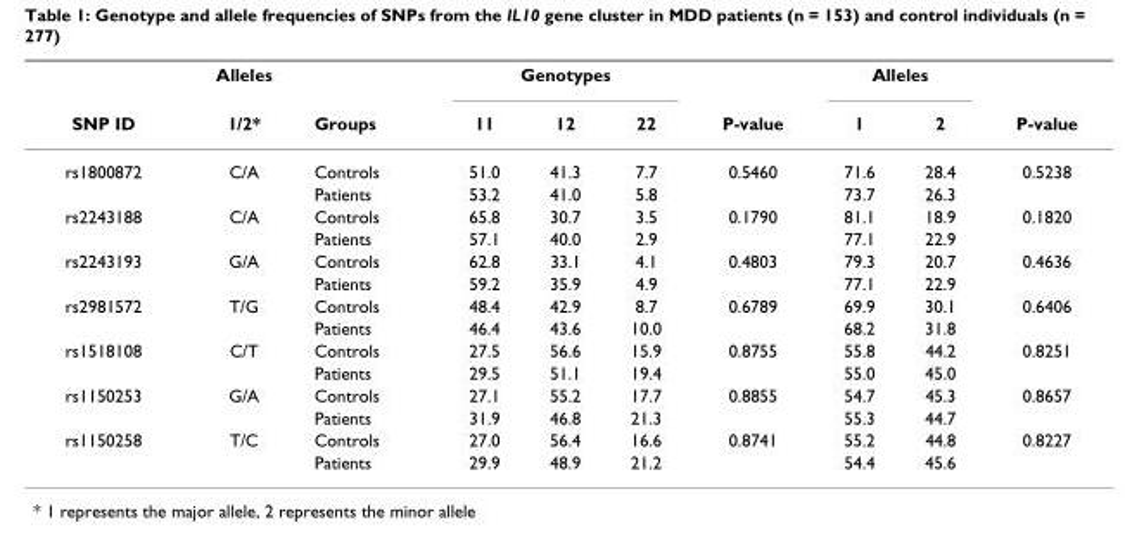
<table><thead><tr><td rowspan="2">SNP ID</td><td rowspan="2">Alleles 1/2*</td><td rowspan="2">Groups</td><td colspan="3">Genotypes</td><td rowspan="2">P-value</td><td colspan="2">Alleles</td><td rowspan="2">P-value</td></tr><tr><td>11</td><td>12</td><td>22</td><td>1</td><td>2</td></tr></thead><tbody><tr><td rowspan="2">rs1800872</td><td>C/A</td><td>Controls</td><td>51.0</td><td>41.3</td><td>7.7</td><td>0.5460</td><td>71.6</td><td>28.4</td><td>0.5238</td></tr><tr><td></td><td>Patients</td><td>53.2</td><td>41.0</td><td>5.8</td><td></td><td>73.7</td><td>26.3</td><td></td></tr><tr><td rowspan="2">rs2243188</td><td>C/A</td><td>Controls</td><td>65.8</td><td>30.7</td><td>3.5</td><td>0.1790</td><td>81.1</td><td>18.9</td><td>0.1820</td></tr><tr><td></td><td>Patients</td><td>57.1</td><td>40.0</td><td>2.9</td><td></td><td>77.1</td><td>22.9</td><td></td></tr><tr><td rowspan="2">rs2243193</td><td>G/A</td><td>Controls</td><td>62.8</td><td>33.1</td><td>4.1</td><td>0.4803</td><td>79.3</td><td>20.7</td><td>0.4636</td></tr><tr><td></td><td>Patients</td><td>59.2</td><td>35.9</td><td>4.9</td><td></td><td>77.1</td><td>22.9</td><td></td></tr><tr><td rowspan="2">rs2981572</td><td>T/G</td><td>Controls</td><td>48.4</td><td>42.9</td><td>8.7</td><td>0.6789</td><td>69.9</td><td>30.1</td><td>0.6406</td></tr><tr><td></td><td>Patients</td><td>46.4</td><td>43.6</td><td>10.0</td><td></td><td>68.2</td><td>31.8</td><td></td></tr><tr><td rowspan="2">rs1518108</td><td>C/T</td><td>Controls</td><td>27.5</td><td>56.6</td><td>15.9</td><td>0.8755</td><td>55.8</td><td>44.2</td><td>0.8251</td></tr><tr><td></td><td>Patients</td><td>29.5</td><td>51.1</td><td>19.4</td><td></td><td>55.0</td><td>45.0</td><td></td></tr><tr><td rowspan="2">rs1150253</td><td>G/A</td><td>Controls</td><td>27.1</td><td>55.2</td><td>17.7</td><td>0.8855</td><td>54.7</td><td>45.3</td><td>0.8657</td></tr><tr><td></td><td>Patients</td><td>31.9</td><td>46.8</td><td>21.3</td><td></td><td>55.3</td><td>44.7</td><td></td></tr><tr><td rowspan="2">rs1150258</td><td>T/C</td><td>Controls</td><td>27.0</td><td>56.4</td><td>16.6</td><td>0.8741</td><td>55.2</td><td>44.8</td><td>0.8227</td></tr><tr><td></td><td>Patients</td><td>29.9</td><td>48.9</td><td>21.2</td><td></td><td>54.4</td><td>45.6</td><td></td></tr></tbody></table>